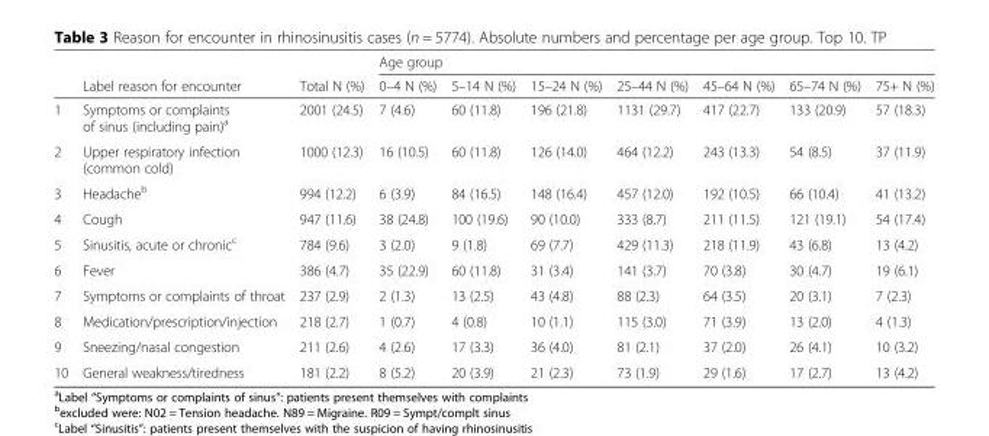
<table><thead><tr><td rowspan="2"></td><td rowspan="2">Label reason for encounter</td><td rowspan="2">Total N (%)</td><td colspan="7">Age group</td></tr><tr><td>0–4 N (%)</td><td>5–14 N (%)</td><td>15–24 N (%)</td><td>25–44 N (%)</td><td>45–64 N (%)</td><td>65–74 N (%)</td><td>75+ N (%)</td></tr></thead><tbody><tr><td>1</td><td>Symptoms or complaints of sinus (including pain)<sup>a</sup></td><td>2001 (24.5)</td><td>7 (4.6)</td><td>60 (11.8)</td><td>196 (21.8)</td><td>1131 (29.7)</td><td>417 (22.7)</td><td>133 (20.9)</td><td>57 (18.3)</td></tr><tr><td>2</td><td>Upper respiratory infection (common cold)</td><td>1000 (12.3)</td><td>16 (10.5)</td><td>60 (11.8)</td><td>126 (14.0)</td><td>464 (12.2)</td><td>243 (13.3)</td><td>54 (8.5)</td><td>37 (11.9)</td></tr><tr><td>3</td><td>Headache<sup>b</sup></td><td>994 (12.2)</td><td>6 (3.9)</td><td>84 (16.5)</td><td>148 (16.4)</td><td>457 (12.0)</td><td>192 (10.5)</td><td>66 (10.4)</td><td>41 (13.2)</td></tr><tr><td>4</td><td>Cough</td><td>947 (11.6)</td><td>38 (24.8)</td><td>100 (19.6)</td><td>90 (10.0)</td><td>333 (8.7)</td><td>211 (11.5)</td><td>121 (19.1)</td><td>54 (17.4)</td></tr><tr><td>5</td><td>Sinusitis, acute or chronic<sup>c</sup></td><td>784 (9.6)</td><td>3 (2.0)</td><td>9 (1.8)</td><td>69 (7.7)</td><td>429 (11.3)</td><td>218 (11.9)</td><td>43 (6.8)</td><td>13 (4.2)</td></tr><tr><td>6</td><td>Fever</td><td>386 (4.7)</td><td>35 (22.9)</td><td>60 (11.8)</td><td>31 (3.4)</td><td>141 (3.7)</td><td>70 (3.8)</td><td>30 (4.7)</td><td>19 (6.1)</td></tr><tr><td>7</td><td>Symptoms or complaints of throat</td><td>237 (2.9)</td><td>2 (1.3)</td><td>13 (2.5)</td><td>43 (4.8)</td><td>88 (2.3)</td><td>64 (3.5)</td><td>20 (3.1)</td><td>7 (2.3)</td></tr><tr><td>8</td><td>Medication/prescription/injection</td><td>218 (2.7)</td><td>1 (0.7)</td><td>4 (0.8)</td><td>10 (1.1)</td><td>115 (3.0)</td><td>71 (3.9)</td><td>13 (2.0)</td><td>4 (1.3)</td></tr><tr><td>9</td><td>Sneezing/nasal congestion</td><td>211 (2.6)</td><td>4 (2.6)</td><td>17 (3.3)</td><td>36 (4.0)</td><td>81 (2.1)</td><td>37 (2.0)</td><td>26 (4.1)</td><td>10 (3.2)</td></tr><tr><td>10</td><td>General weakness/tiredness</td><td>181 (2.2)</td><td>8 (5.2)</td><td>20 (3.9)</td><td>21 (2.3)</td><td>73 (1.9)</td><td>29 (1.6)</td><td>17 (2.7)</td><td>13 (4.2)</td></tr></tbody></table>